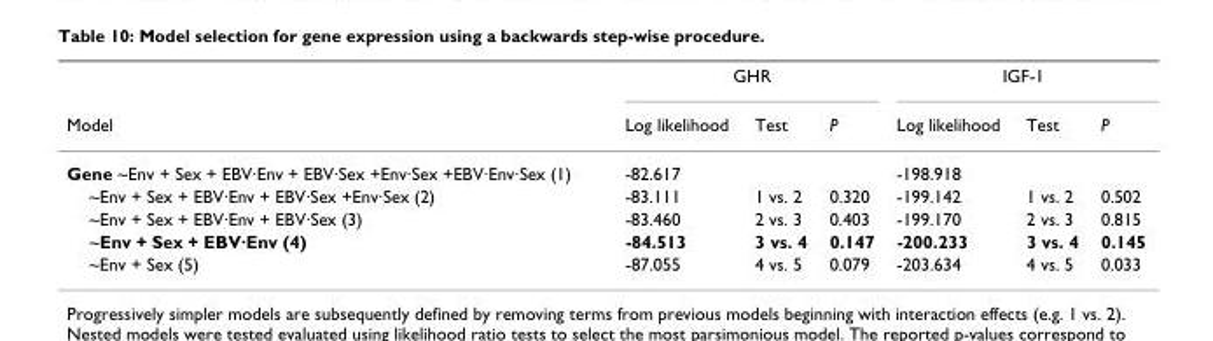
<table><thead><tr><td rowspan="2">Model</td><td colspan="3">GHR</td><td colspan="3">IGF-1</td></tr><tr><td>Log likelihood</td><td>Test</td><td>P</td><td>Log likelihood</td><td>Test</td><td>P</td></tr></thead><tbody><tr><td>Gene ~Env + Sex + EBV·Env + EBV·Sex +Env·Sex +EBV·Env·Sex (1)</td><td>-82.617</td><td></td><td></td><td>-198.918</td><td></td><td></td></tr><tr><td>~Env + Sex + EBV·Env + EBV·Sex +Env·Sex (2)</td><td>-83.111</td><td>1 vs. 2</td><td>0.320</td><td>-199.142</td><td>1 vs. 2</td><td>0.502</td></tr><tr><td>~Env + Sex + EBV·Env + EBV·Sex (3)</td><td>-83.460</td><td>2 vs. 3</td><td>0.403</td><td>-199.170</td><td>2 vs. 3</td><td>0.815</td></tr><tr><td>~Env + Sex + EBV·Env (4)</td><td>-84.513</td><td>3 vs. 4</td><td>0.147</td><td>-200.233</td><td>3 vs. 4</td><td>0.145</td></tr><tr><td>~Env + Sex (5)</td><td>-87.055</td><td>4 vs. 5</td><td>0.079</td><td>-203.634</td><td>4 vs. 5</td><td>0.033</td></tr></tbody></table>